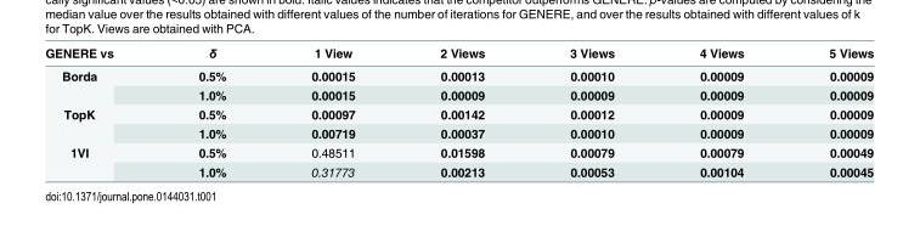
<table><thead><tr><td>GENERE vs</td><td>δ</td><td>1 View</td><td>2 Views</td><td>3 Views</td><td>4 Views</td><td>5 Views</td></tr></thead><tbody><tr><td rowspan="2">Borda</td><td>0.5%</td><td>0.00015</td><td>0.00013</td><td>0.00010</td><td>0.00009</td><td>0.00009</td></tr><tr><td>1.0%</td><td>0.00015</td><td>0.00009</td><td>0.00009</td><td>0.00009</td><td>0.00009</td></tr><tr><td rowspan="2">TopK</td><td>0.5%</td><td>0.00097</td><td>0.00142</td><td>0.00012</td><td>0.00009</td><td>0.00009</td></tr><tr><td>1.0%</td><td>0.00719</td><td>0.00037</td><td>0.00010</td><td>0.00009</td><td>0.00009</td></tr><tr><td rowspan="2">1VI</td><td>0.5%</td><td>0.48511</td><td>0.01598</td><td>0.00079</td><td>0.00079</td><td>0.00049</td></tr><tr><td>1.0%</td><td>0.31773</td><td>0.00213</td><td>0.00053</td><td>0.00104</td><td>0.00045</td></tr></tbody></table>